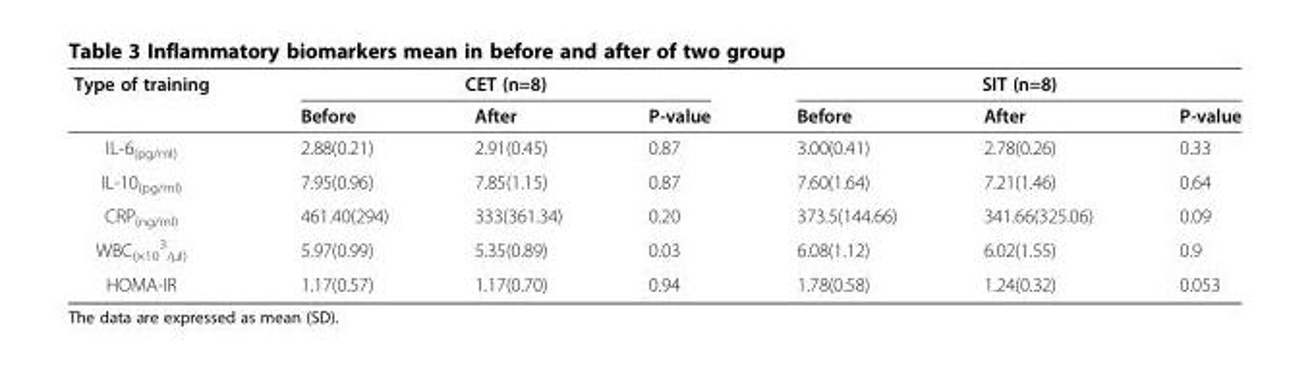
<table><thead><tr><td rowspan="2">Type of training</td><td colspan="3">CET (n=8)</td><td colspan="3">SIT (n=8)</td></tr><tr><td>Before</td><td>After</td><td>P-value</td><td>Before</td><td>After</td><td>P-value</td></tr></thead><tbody><tr><td>IL-6<sub>(pg/ml)</sub></td><td>2.88(0.21)</td><td>2.91(0.45)</td><td>0.87</td><td>3.00(0.41)</td><td>2.78(0.26)</td><td>0.33</td></tr><tr><td>IL-10<sub>(pg/ml)</sub></td><td>7.95(0.96)</td><td>7.85(1.15)</td><td>0.87</td><td>7.60(1.64)</td><td>7.21(1.46)</td><td>0.64</td></tr><tr><td>CRP<sub>(ng/ml)</sub></td><td>461.40(294)</td><td>333(361.34)</td><td>0.20</td><td>373.5(144.66)</td><td>341.66(325.06)</td><td>0.09</td></tr><tr><td>WBC<sub>(×10</sub> <sup>3</sup> <sub>/μl)</sub></td><td>5.97(0.99)</td><td>5.35(0.89)</td><td>0.03</td><td>6.08(1.12)</td><td>6.02(1.55)</td><td>0.9</td></tr><tr><td>HOMA-IR</td><td>1.17(0.57)</td><td>1.17(0.70)</td><td>0.94</td><td>1.78(0.58)</td><td>1.24(0.32)</td><td>0.053</td></tr></tbody></table>